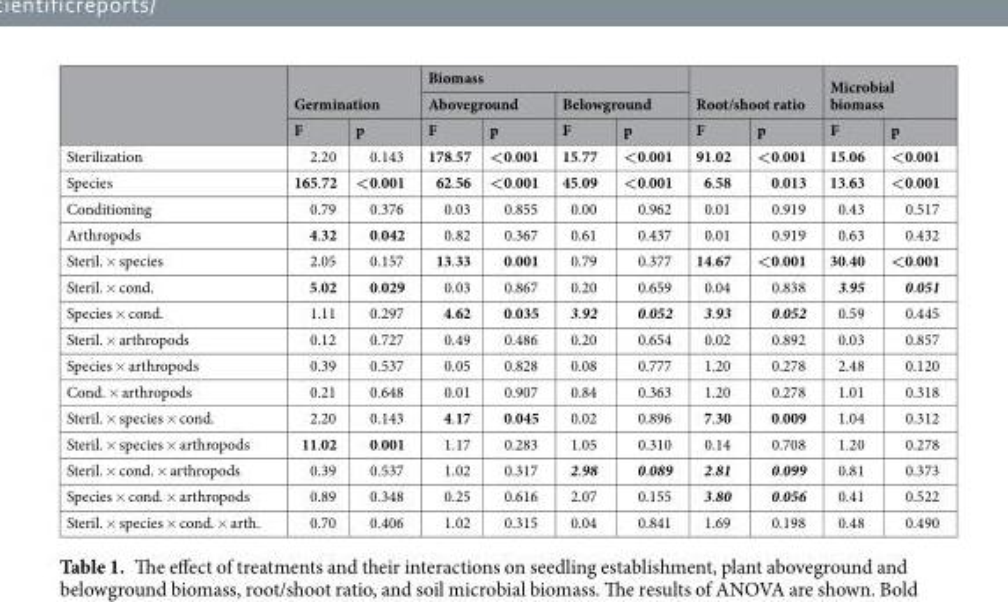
<table><thead><tr><td rowspan="3"></td><td rowspan="2" colspan="2">Germination</td><td colspan="4">Biomass</td><td rowspan="2" colspan="2">Root/shoot ratio</td><td rowspan="2" colspan="2">Microbial biomass</td></tr><tr><td colspan="2">Aboveground</td><td colspan="2">Belowground</td></tr><tr><td>F</td><td>p</td><td>F</td><td>p</td><td>F</td><td>p</td><td>F</td><td>p</td><td>F</td><td>p</td></tr></thead><tbody><tr><td>Sterilization</td><td>2.20</td><td>0.143</td><td>178.57</td><td>&lt;0.001</td><td>15.77</td><td>&lt;0.001</td><td>91.02</td><td>&lt;0.001</td><td>15.06</td><td>&lt;0.001</td></tr><tr><td>Species</td><td>165.72</td><td>&lt;0.001</td><td>62.56</td><td>&lt;0.001</td><td>45.09</td><td>&lt;0.001</td><td>6.58</td><td>0.013</td><td>13.63</td><td>&lt;0.001</td></tr><tr><td>Conditioning</td><td>0.79</td><td>0.376</td><td>0.03</td><td>0.855</td><td>0.00</td><td>0.962</td><td>0.01</td><td>0.919</td><td>0.43</td><td>0.517</td></tr><tr><td>Arthropods</td><td>4.32</td><td>0.042</td><td>0.82</td><td>0.367</td><td>0.61</td><td>0.437</td><td>0.01</td><td>0.919</td><td>0.63</td><td>0.432</td></tr><tr><td>Steril. × species</td><td>2.05</td><td>0.157</td><td>13.33</td><td>0.001</td><td>0.79</td><td>0.377</td><td>14.67</td><td>&lt;0.001</td><td>30.40</td><td>&lt;0.001</td></tr><tr><td>Steril. × cond.</td><td>5.02</td><td>0.029</td><td>0.03</td><td>0.867</td><td>0.20</td><td>0.659</td><td>0.04</td><td>0.838</td><td>3.95</td><td>0.051</td></tr><tr><td>Species × cond.</td><td>1.11</td><td>0.297</td><td>4.62</td><td>0.035</td><td>3.92</td><td>0.052</td><td>3.93</td><td>0.052</td><td>0.59</td><td>0.445</td></tr><tr><td>Steril. × arthropods</td><td>0.12</td><td>0.727</td><td>0.49</td><td>0.486</td><td>0.20</td><td>0.654</td><td>0.02</td><td>0.892</td><td>0.03</td><td>0.857</td></tr><tr><td>Species × arthropods</td><td>0.39</td><td>0.537</td><td>0.05</td><td>0.828</td><td>0.08</td><td>0.777</td><td>1.20</td><td>0.278</td><td>2.48</td><td>0.120</td></tr><tr><td>Cond. × arthropods</td><td>0.21</td><td>0.648</td><td>0.01</td><td>0.907</td><td>0.84</td><td>0.363</td><td>1.20</td><td>0.278</td><td>1.01</td><td>0.318</td></tr><tr><td>Steril. × species × cond.</td><td>2.20</td><td>0.143</td><td>4.17</td><td>0.045</td><td>0.02</td><td>0.896</td><td>7.30</td><td>0.009</td><td>1.04</td><td>0.312</td></tr><tr><td>Steril. × species × arthropods</td><td>11.02</td><td>0.001</td><td>1.17</td><td>0.283</td><td>1.05</td><td>0.310</td><td>0.14</td><td>0.708</td><td>1.20</td><td>0.278</td></tr><tr><td>Steril. × cond. × arthropods</td><td>0.39</td><td>0.537</td><td>1.02</td><td>0.317</td><td>2.98</td><td>0.089</td><td>2.81</td><td>0.099</td><td>0.81</td><td>0.373</td></tr><tr><td>Species × cond. × arthropods</td><td>0.89</td><td>0.348</td><td>0.25</td><td>0.616</td><td>2.07</td><td>0.155</td><td>3.80</td><td>0.056</td><td>0.41</td><td>0.522</td></tr><tr><td>Steril. × species × cond. × arth.</td><td>0.70</td><td>0.406</td><td>1.02</td><td>0.315</td><td>0.04</td><td>0.841</td><td>1.69</td><td>0.198</td><td>0.48</td><td>0.490</td></tr></tbody></table>